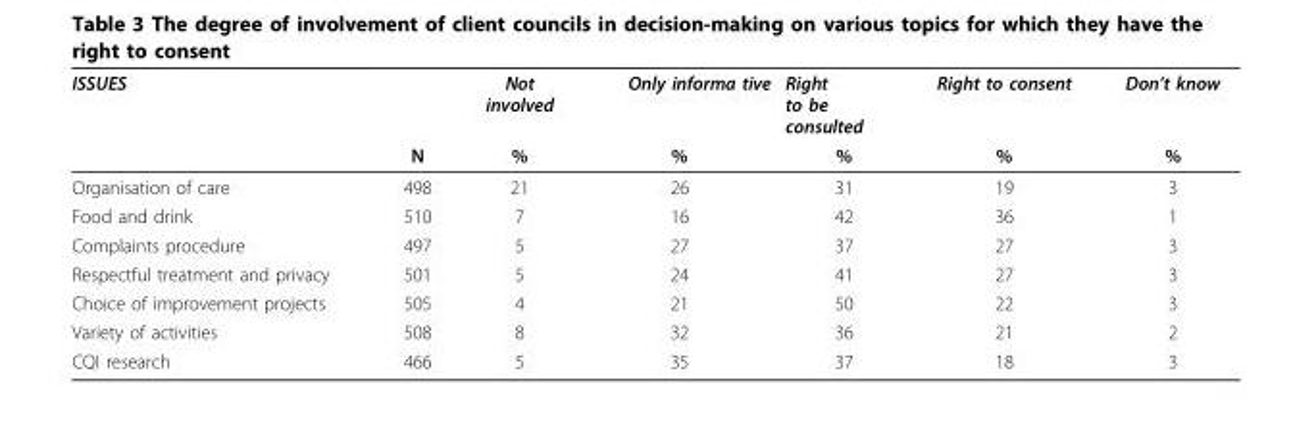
<table><thead><tr><td rowspan="2">ISSUES</td><td rowspan="2">N</td><td rowspan="2">Not involved %</td><td rowspan="2">Only informa tive %</td><td rowspan="2">Right to be consulted %</td><td rowspan="2">Right to consent %</td><td rowspan="2">Don’t know %</td></tr><tr></tr></thead><tbody><tr><td>Organisation of care</td><td>498</td><td>21</td><td>26</td><td>31</td><td>19</td><td>3</td></tr><tr><td>Food and drink</td><td>510</td><td>7</td><td>16</td><td>42</td><td>36</td><td>1</td></tr><tr><td>Complaints procedure</td><td>497</td><td>5</td><td>27</td><td>37</td><td>27</td><td>3</td></tr><tr><td>Respectful treatment and privacy</td><td>501</td><td>5</td><td>24</td><td>41</td><td>27</td><td>3</td></tr><tr><td>Choice of improvement projects</td><td>505</td><td>4</td><td>21</td><td>50</td><td>22</td><td>3</td></tr><tr><td>Variety of activities</td><td>508</td><td>8</td><td>32</td><td>36</td><td>21</td><td>2</td></tr><tr><td>CQI research</td><td>466</td><td>5</td><td>35</td><td>37</td><td>18</td><td>3</td></tr></tbody></table>